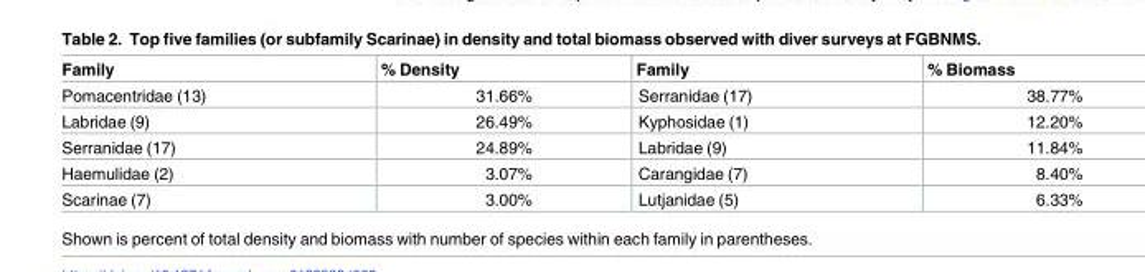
<table><thead><tr><td>Family</td><td>% Density</td><td>Family</td><td>% Biomass</td></tr></thead><tbody><tr><td>Pomacentridae (13)</td><td>31.66%</td><td>Serranidae (17)</td><td>38.77%</td></tr><tr><td>Labridae (9)</td><td>26.49%</td><td>Kyphosidae (1)</td><td>12.20%</td></tr><tr><td>Serranidae (17)</td><td>24.89%</td><td>Labridae (9)</td><td>11.84%</td></tr><tr><td>Haemulidae (2)</td><td>3.07%</td><td>Carangidae (7)</td><td>8.40%</td></tr><tr><td>Scarinae (7)</td><td>3.00%</td><td>Lutjanidae (5)</td><td>6.33%</td></tr></tbody></table>